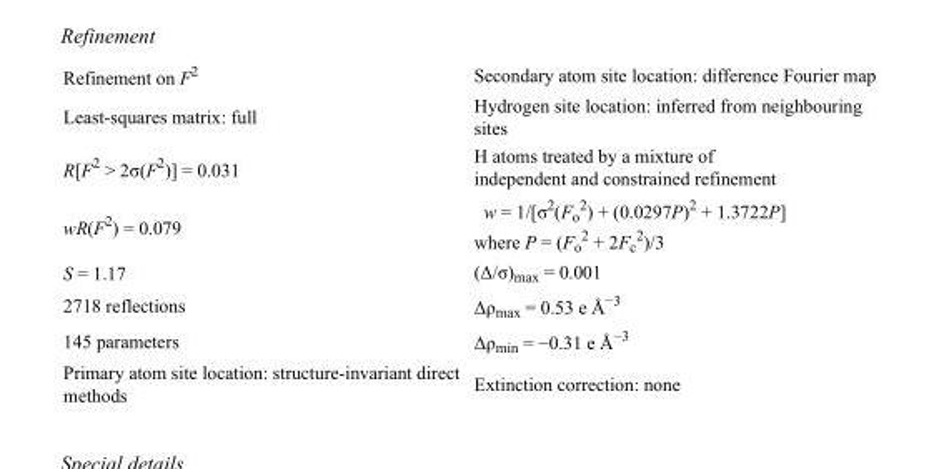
<table><tbody><tr><td>Refinement on F<sup>2</sup></td><td>Secondary atom site location: difference Fourier map</td></tr><tr><td>Least-squares matrix: full</td><td>Hydrogen site location: inferred from neighbouring sites</td></tr><tr><td>R[F<sup>2</sup> &gt; 2σ(F<sup>2</sup>)] = 0.031</td><td>H atoms treated by a mixture of independent and constrained refinement</td></tr><tr><td>wR(F<sup>2</sup>) = 0.079</td><td>w = 1/[σ<sup>2</sup>(F<sub>o</sub> <sup>2</sup>) + (0.0297P)<sup>2</sup> + 1.3722P] where P = (F<sub>o</sub> <sup>2</sup> + 2F<sub>c</sub> <sup>2</sup>)/3</td></tr><tr><td>S = 1.17</td><td>(Δ/σ)<sub>max</sub> = 0.001</td></tr><tr><td>2718 reflections</td><td>Δρ<sub>max</sub> = 0.53 e Å<sup>−3</sup></td></tr><tr><td>145 parameters</td><td>Δρ<sub>min</sub> = −0.31 e Å<sup>−3</sup></td></tr><tr><td>Primary atom site location: structure-invariant direct methods</td><td>Extinction correction: none</td></tr></tbody></table>